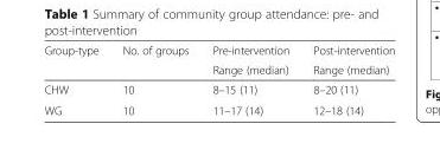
<table><thead><tr><td rowspan="2">Group-type</td><td rowspan="2">No. of groups</td><td rowspan="2">Pre-intervention Range (median)</td><td rowspan="2">Post-intervention Range (median)</td></tr><tr></tr></thead><tbody><tr><td>CHW</td><td>10</td><td>8–15 (11)</td><td>8–20 (11)</td></tr><tr><td>WG</td><td>10</td><td>11–17 (14)</td><td>12–18 (14)</td></tr></tbody></table>